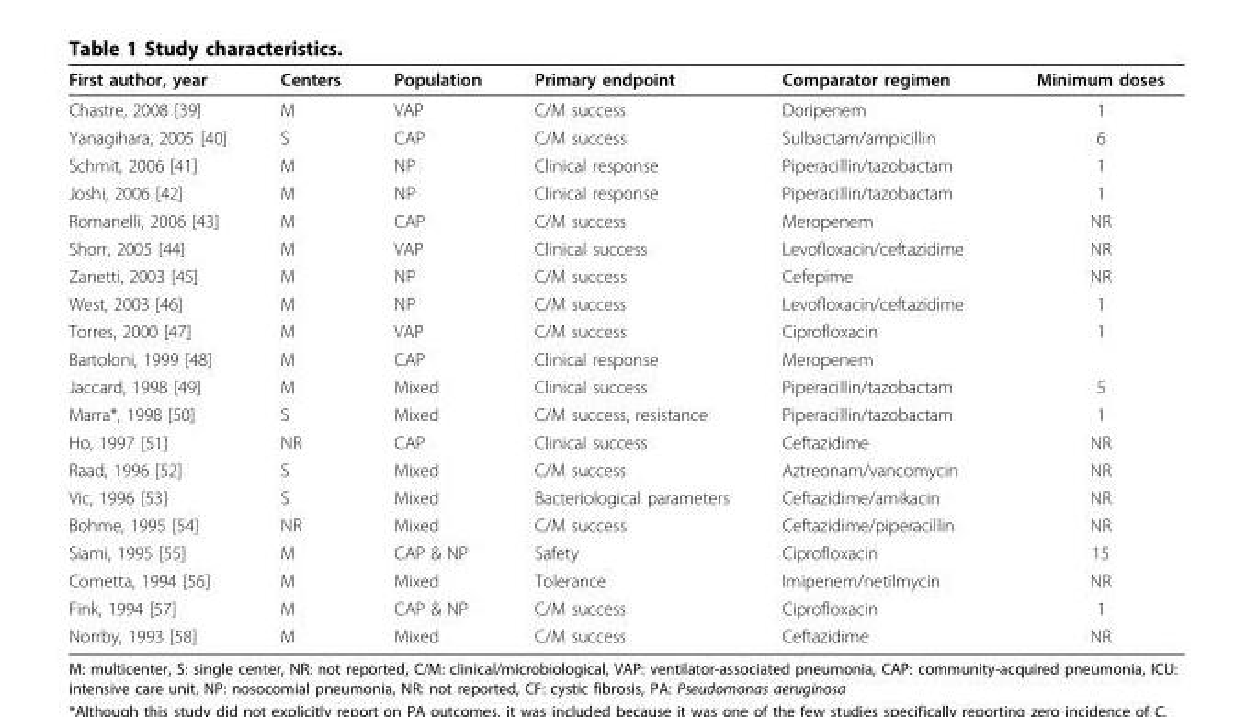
<table><thead><tr><td>First author, year</td><td>Centers</td><td>Population</td><td>Primary endpoint</td><td>Comparator regimen</td><td>Minimum doses</td></tr></thead><tbody><tr><td>Chastre, 2008 [39]</td><td>M</td><td>VAP</td><td>C/M success</td><td>Doripenem</td><td>1</td></tr><tr><td>Yanagihara, 2005 [40]</td><td>S</td><td>CAP</td><td>C/M success</td><td>Sulbactam/ampicillin</td><td>6</td></tr><tr><td>Schmit, 2006 [41]</td><td>M</td><td>NP</td><td>Clinical response</td><td>Piperacillin/tazobactam</td><td>1</td></tr><tr><td>Joshi, 2006 [42]</td><td>M</td><td>NP</td><td>Clinical response</td><td>Piperacillin/tazobactam</td><td>1</td></tr><tr><td>Romanelli, 2006 [43]</td><td>M</td><td>CAP</td><td>C/M success</td><td>Meropenem</td><td>NR</td></tr><tr><td>Shorr, 2005 [44]</td><td>M</td><td>VAP</td><td>Clinical success</td><td>Levofloxacin/ceftazidime</td><td>NR</td></tr><tr><td>Zanetti, 2003 [45]</td><td>M</td><td>NP</td><td>C/M success</td><td>Cefepime</td><td>NR</td></tr><tr><td>West, 2003 [46]</td><td>M</td><td>NP</td><td>C/M success</td><td>Levofloxacin/ceftazidime</td><td>1</td></tr><tr><td>Torres, 2000 [47]</td><td>M</td><td>VAP</td><td>C/M success</td><td>Ciprofloxacin</td><td>1</td></tr><tr><td>Bartoloni, 1999 [48]</td><td>M</td><td>CAP</td><td>Clinical response</td><td>Meropenem</td><td></td></tr><tr><td>Jaccard, 1998 [49]</td><td>M</td><td>Mixed</td><td>Clinical success</td><td>Piperacillin/tazobactam</td><td>5</td></tr><tr><td>Marra*, 1998 [50]</td><td>S</td><td>Mixed</td><td>C/M success, resistance</td><td>Piperacillin/tazobactam</td><td>1</td></tr><tr><td>Ho, 1997 [51]</td><td>NR</td><td>CAP</td><td>Clinical success</td><td>Ceftazidime</td><td>NR</td></tr><tr><td>Raad, 1996 [52]</td><td>S</td><td>Mixed</td><td>C/M success</td><td>Aztreonam/vancomycin</td><td>NR</td></tr><tr><td>Vic, 1996 [53]</td><td>S</td><td>Mixed</td><td>Bacteriological parameters</td><td>Ceftazidime/amikacin</td><td>NR</td></tr><tr><td>Bohme, 1995 [54]</td><td>NR</td><td>Mixed</td><td>C/M success</td><td>Ceftazidime/piperacillin</td><td>NR</td></tr><tr><td>Siami, 1995 [55]</td><td>M</td><td>CAP &amp; NP</td><td>Safety</td><td>Ciprofloxacin</td><td>15</td></tr><tr><td>Cometta, 1994 [56]</td><td>M</td><td>Mixed</td><td>Tolerance</td><td>Imipenem/netilmycin</td><td>NR</td></tr><tr><td>Fink, 1994 [57]</td><td>M</td><td>CAP &amp; NP</td><td>C/M success</td><td>Ciprofloxacin</td><td>1</td></tr><tr><td>Norrby, 1993 [58]</td><td>M</td><td>Mixed</td><td>C/M success</td><td>Ceftazidime</td><td>NR</td></tr></tbody></table>